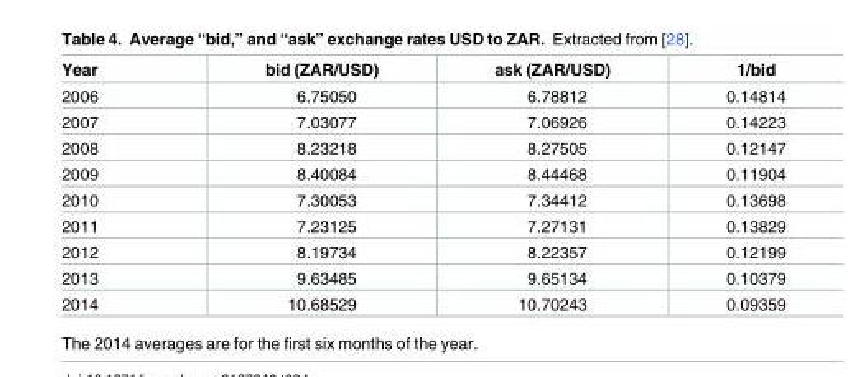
<table><thead><tr><td>Year</td><td>bid (ZAR/USD)</td><td>ask (ZAR/USD)</td><td>1/bid</td></tr></thead><tbody><tr><td>2006</td><td>6.75050</td><td>6.78812</td><td>0.14814</td></tr><tr><td>2007</td><td>7.03077</td><td>7.06926</td><td>0.14223</td></tr><tr><td>2008</td><td>8.23218</td><td>8.27505</td><td>0.12147</td></tr><tr><td>2009</td><td>8.40084</td><td>8.44468</td><td>0.11904</td></tr><tr><td>2010</td><td>7.30053</td><td>7.34412</td><td>0.13698</td></tr><tr><td>2011</td><td>7.23125</td><td>7.27131</td><td>0.13829</td></tr><tr><td>2012</td><td>8.19734</td><td>8.22357</td><td>0.12199</td></tr><tr><td>2013</td><td>9.63485</td><td>9.65134</td><td>0.10379</td></tr><tr><td>2014</td><td>10.68529</td><td>10.70243</td><td>0.09359</td></tr></tbody></table>